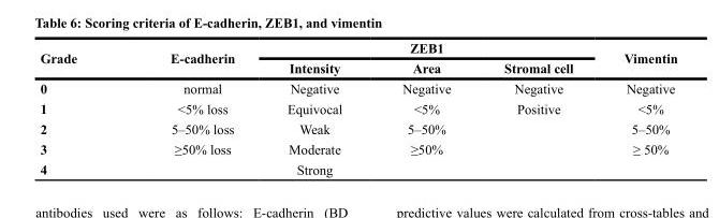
<table><thead><tr><td rowspan="2">Grade</td><td rowspan="2">E-cadherin</td><td colspan="3">ZEB1</td><td rowspan="2">Vimentin</td></tr><tr><td>Intensity</td><td>Area</td><td>Stromal cell</td></tr></thead><tbody><tr><td>0</td><td>normal</td><td>Negative</td><td>Negative</td><td>Negative</td><td>Negative</td></tr><tr><td>1</td><td>&lt;5% loss</td><td>Equivocal</td><td>&lt;5%</td><td>Positive</td><td>&lt;5%</td></tr><tr><td>2</td><td>5–50% loss</td><td>Weak</td><td>5–50%</td><td></td><td>5–50%</td></tr><tr><td>3</td><td>≥50% loss</td><td>Moderate</td><td>≥50%</td><td></td><td>≥ 50%</td></tr><tr><td>4</td><td></td><td>Strong</td><td></td><td></td><td></td></tr></tbody></table>